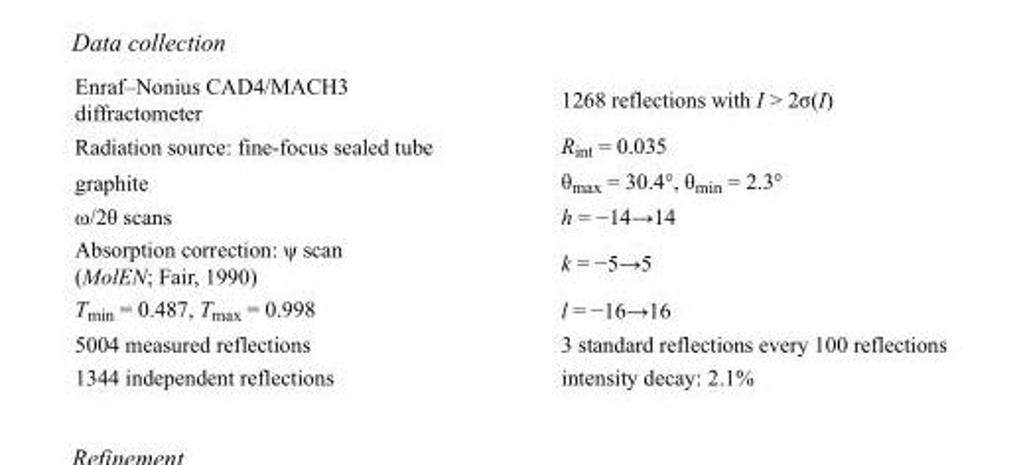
<table><tbody><tr><td>Enraf–Nonius CAD4/MACH3 diffractometer</td><td>1268 reflections with I &gt; 2σ(I)</td></tr><tr><td>Radiation source: fine-focus sealed tube</td><td>R<sub>int</sub> = 0.035</td></tr><tr><td>graphite</td><td>θ<sub>max</sub> = 30.4°, θ<sub>min</sub> = 2.3°</td></tr><tr><td>ω/2θ scans</td><td>h = −14→14</td></tr><tr><td>Absorption correction: ψ scan (MolEN; Fair, 1990)</td><td>k = −5→5</td></tr><tr><td>T<sub>min</sub> = 0.487, T<sub>max</sub> = 0.998</td><td>l = −16→16</td></tr><tr><td>5004 measured reflections</td><td>3 standard reflections every 100 reflections</td></tr><tr><td>1344 independent reflections</td><td>intensity decay: 2.1%</td></tr></tbody></table>